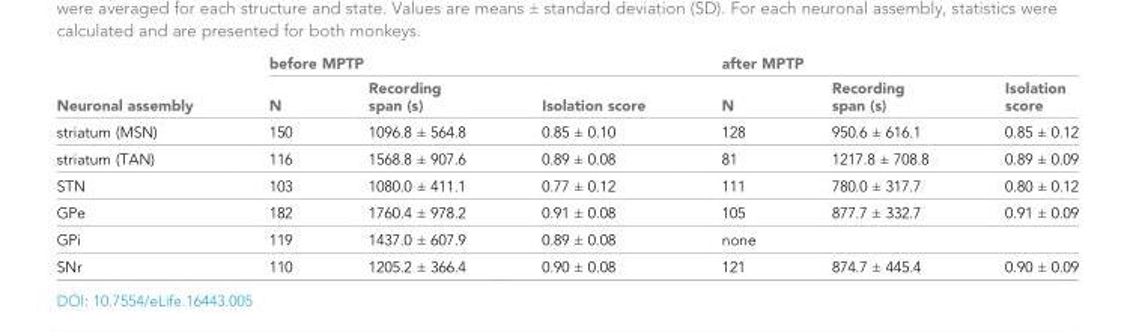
<table><thead><tr><td rowspan="2">Neuronal assembly</td><td colspan="3">before MPTP</td><td colspan="3">after MPTP</td></tr><tr><td>N</td><td>Recording span (s)</td><td>Isolation score</td><td>N</td><td>Recording span (s)</td><td>Isolation score</td></tr></thead><tbody><tr><td>striatum (MSN)</td><td>150</td><td>1096.8 ± 564.8</td><td>0.85 ± 0.10</td><td>128</td><td>950.6 ± 616.1</td><td>0.85 ± 0.12</td></tr><tr><td>striatum (TAN)</td><td>116</td><td>1568.8 ± 907.6</td><td>0.89 ± 0.08</td><td>81</td><td>1217.8 ± 708.8</td><td>0.89 ± 0.09</td></tr><tr><td>STN</td><td>103</td><td>1080.0 ± 411.1</td><td>0.77 ± 0.12</td><td>111</td><td>780.0 ± 317.7</td><td>0.80 ± 0.12</td></tr><tr><td>GPe</td><td>182</td><td>1760.4 ± 978.2</td><td>0.91 ± 0.08</td><td>105</td><td>877.7 ± 332.7</td><td>0.91 ± 0.09</td></tr><tr><td>GPi</td><td>119</td><td>1437.0 ± 607.9</td><td>0.89 ± 0.08</td><td>none</td><td></td><td></td></tr><tr><td>SNr</td><td>110</td><td>1205.2 ± 366.4</td><td>0.90 ± 0.08</td><td>121</td><td>874.7 ± 445.4</td><td>0.90 ± 0.09</td></tr></tbody></table>